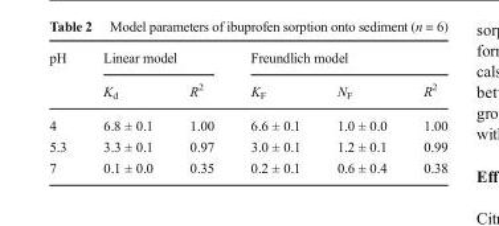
<table><thead><tr><td rowspan="2">pH</td><td colspan="2">Linear model</td><td colspan="3">Freundlich model</td></tr><tr><td>K<sub>d</sub></td><td>R<sup>2</sup></td><td>K<sub>F</sub></td><td>N<sub>F</sub></td><td>R<sup>2</sup></td></tr></thead><tbody><tr><td>4</td><td>6.8 ± 0.1</td><td>1.00</td><td>6.6 ± 0.1</td><td>1.0 ± 0.0</td><td>1.00</td></tr><tr><td>5.3</td><td>3.3 ± 0.1</td><td>0.97</td><td>3.0 ± 0.1</td><td>1.2 ± 0.1</td><td>0.99</td></tr><tr><td>7</td><td>0.1 ± 0.0</td><td>0.35</td><td>0.2 ± 0.1</td><td>0.6 ± 0.4</td><td>0.38</td></tr></tbody></table>